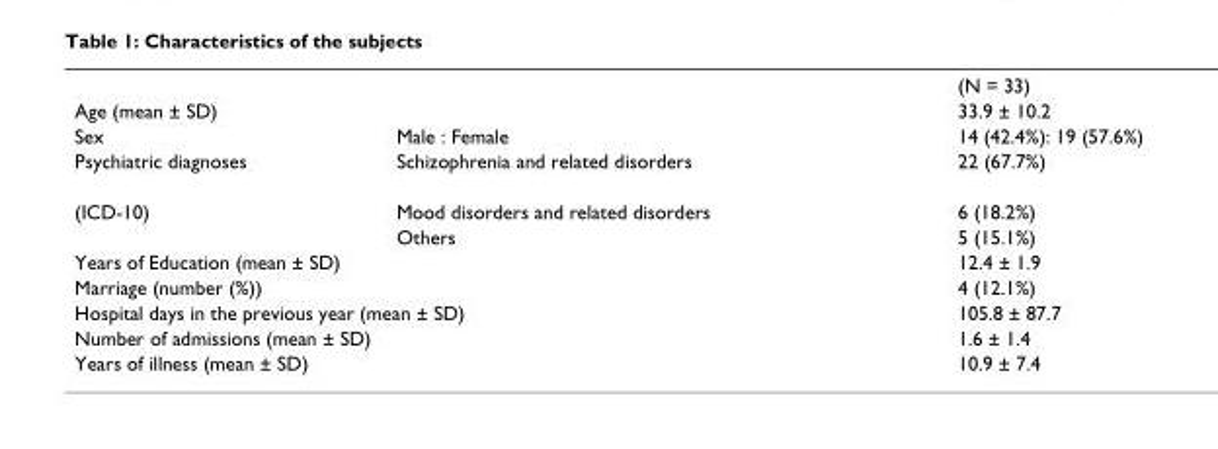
<table><thead><tr><td></td><td></td><td>(N = 33)</td></tr></thead><tbody><tr><td>Age (mean ± SD)</td><td></td><td>33.9 ± 10.2</td></tr><tr><td>Sex</td><td>Male : Female</td><td>14 (42.4%): 19 (57.6%)</td></tr><tr><td>Psychiatric diagnoses</td><td>Schizophrenia and related disorders</td><td>22 (67.7%)</td></tr><tr><td rowspan="2">(ICD-10)</td><td>Mood disorders and related disorders</td><td>6 (18.2%)</td></tr><tr><td>Others</td><td>5 (15.1%)</td></tr><tr><td colspan="2">Years of Education (mean ± SD)</td><td>12.4 ± 1.9</td></tr><tr><td colspan="2">Marriage (number (%))</td><td>4 (12.1%)</td></tr><tr><td colspan="2">Hospital days in the previous year (mean ± SD)</td><td>105.8 ± 87.7</td></tr><tr><td colspan="2">Number of admissions (mean ± SD)</td><td>1.6 ± 1.4</td></tr><tr><td colspan="2">Years of illness (mean ± SD)</td><td>10.9 ± 7.4</td></tr></tbody></table>